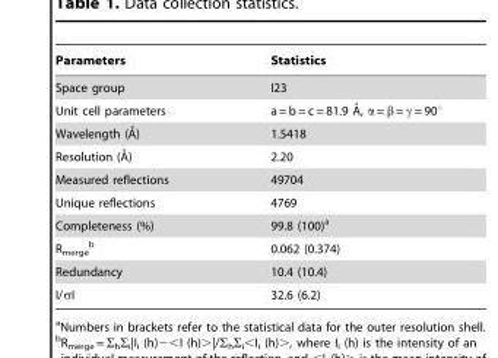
<table><thead><tr><td>Parameters</td><td>Statistics</td></tr></thead><tbody><tr><td>Space group</td><td>I23</td></tr><tr><td>Unit cell parameters</td><td>a = b = c = 81.9 A˚, a = b = c = 90u</td></tr><tr><td>Wavelength (A˚)</td><td>1.5418</td></tr><tr><td>Resolution (A˚)</td><td>2.20</td></tr><tr><td>Measured reflections</td><td>49704</td></tr><tr><td>Unique reflections</td><td>4769</td></tr><tr><td>Completeness (%)</td><td>99.8 (100)<sup>a</sup></td></tr><tr><td>R<sub>merge</sub> b</td><td>0.062 (0.374)</td></tr><tr><td>Redundancy</td><td>10.4 (10.4)</td></tr><tr><td>I/σI</td><td>32.6 (6.2)</td></tr></tbody></table>